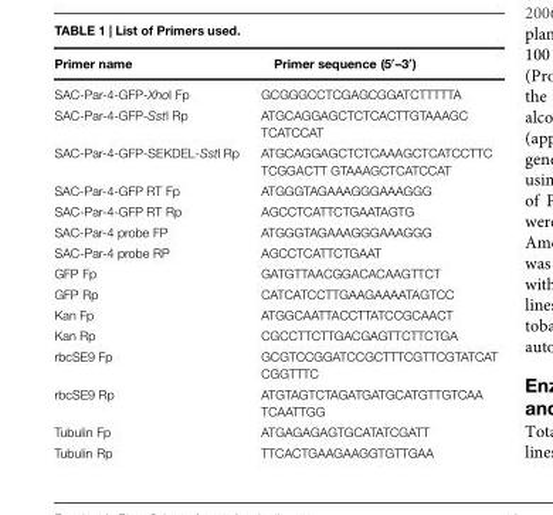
<table><thead><tr><td>Primer name</td><td>Primer sequence (5′–3′)</td></tr></thead><tbody><tr><td>SAC-Par-4-GFP-XhoI Fp</td><td>GCGGGCCTCGAGCGGATCTTTTTA</td></tr><tr><td>SAC-Par-4-GFP-SstI Rp</td><td>ATGCAGGAGCTCTCACTTGTAAAGC TCATCCAT</td></tr><tr><td>SAC-Par-4-GFP-SEKDEL-SstI Rp</td><td>ATGCAGGAGCTCTCAAAGCTCATCCTTC TCGGACTT GTAAAGCTCATCCAT</td></tr><tr><td>SAC-Par-4-GFP RT Fp</td><td>ATGGGTAGAAAGGGAAAGGG</td></tr><tr><td>SAC-Par-4-GFP RT Rp</td><td>AGCCTCATTCTGAATAGTG</td></tr><tr><td>SAC-Par-4 probe FP</td><td>ATGGGTAGAAAGGGAAAGGG</td></tr><tr><td>SAC-Par-4 probe RP</td><td>AGCCTCATTCTGAAT</td></tr><tr><td>GFP Fp</td><td>GATGTTAACGGACACAAGTTCT</td></tr><tr><td>GFP Rp</td><td>CATCATCCTTGAAGAAAATAGTCC</td></tr><tr><td>Kan Fp</td><td>ATGGCAATTACCTTATCCGCAACT</td></tr><tr><td>Kan Rp</td><td>CGCCTTCTTGACGAGTTCTTCTGA</td></tr><tr><td>rbcSE9 Fp</td><td>GCGTCCGGATCCGCTTTCGTTCGTATCAT CGGTTTC</td></tr><tr><td>rbcSE9 Rp</td><td>ATGTAGTCTAGATGATGCATGTTGTCAA TCAATTGG</td></tr><tr><td>Tubulin Fp</td><td>ATGAGAGAGTGCATATCGATT</td></tr><tr><td>Tubulin Rp</td><td>TTCACTGAAGAAGGTGTTGAA</td></tr></tbody></table>